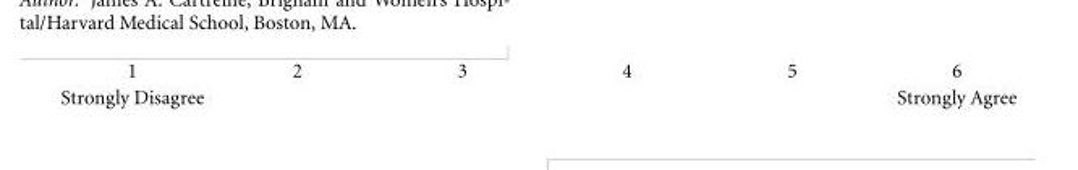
<table><tbody><tr><td>1</td><td>2</td><td>3</td><td>4</td><td>5</td><td>6</td></tr><tr><td>Strongly Disagree</td><td></td><td></td><td></td><td></td><td>Strongly Agree</td></tr></tbody></table>